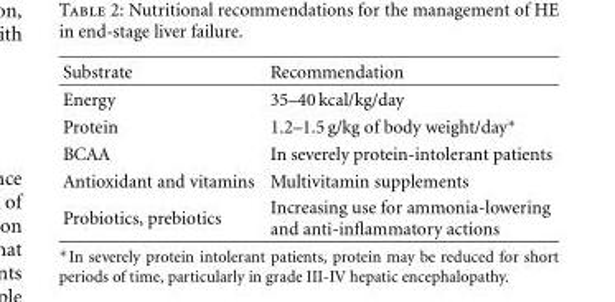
<table><thead><tr><td>Substrate</td><td>Recommendation</td></tr></thead><tbody><tr><td>Energy</td><td>35–40 kcal/kg/day</td></tr><tr><td>Protein</td><td>1.2–1.5 g/kg of body weight/day∗</td></tr><tr><td>BCAA</td><td>In severely protein-intolerant patients</td></tr><tr><td>Antioxidant and vitamins</td><td>Multivitamin supplements</td></tr><tr><td>Probiotics, prebiotics</td><td>Increasing use for ammonia-lowering and anti-inflammatory actions</td></tr></tbody></table>